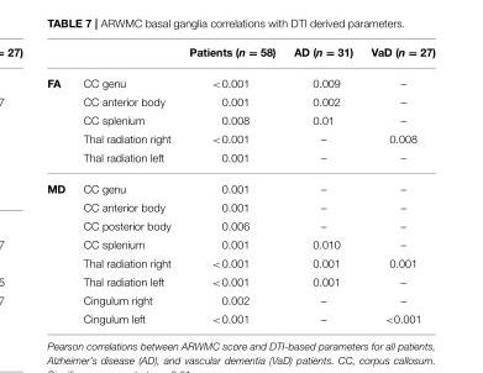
<table><thead><tr><td></td><td></td><td>Patients (n = 58)</td><td>AD (n = 31)</td><td>VaD (n = 27)</td></tr></thead><tbody><tr><td rowspan="5">FA</td><td>CC genu</td><td>&lt;0.001</td><td>0.009</td><td>–</td></tr><tr><td>CC anterior body</td><td>0.001</td><td>0.002</td><td>–</td></tr><tr><td>CC splenium</td><td>0.008</td><td>0.01</td><td>–</td></tr><tr><td>Thal radiation right</td><td>&lt;0.001</td><td>–</td><td>0.008</td></tr><tr><td>Thal radiation left</td><td>0.001</td><td>–</td><td>–</td></tr><tr><td rowspan="8">MD</td><td>CC genu</td><td>0.001</td><td>–</td><td>–</td></tr><tr><td>CC anterior body</td><td>0.001</td><td>–</td><td>–</td></tr><tr><td>CC posterior body</td><td>0.006</td><td>–</td><td>–</td></tr><tr><td>CC splenium</td><td>0.001</td><td>0.010</td><td>–</td></tr><tr><td>Thal radiation right</td><td>&lt;0.001</td><td>0.001</td><td>0.001</td></tr><tr><td>Thal radiation left</td><td>&lt;0.001</td><td>0.001</td><td>–</td></tr><tr><td>Cingulum right</td><td>0.002</td><td>–</td><td>–</td></tr><tr><td>Cingulum left</td><td>&lt;0.001</td><td>–</td><td>&lt;0.001</td></tr></tbody></table>